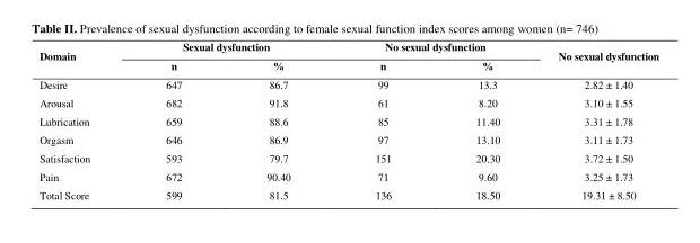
<table><thead><tr><td rowspan="2">Domain</td><td colspan="2">Sexual dysfunction</td><td colspan="2">No sexual dysfunction</td><td rowspan="2">No sexual dysfunction</td></tr><tr><td>n</td><td>%</td><td>n</td><td>%</td></tr></thead><tbody><tr><td>Desire</td><td>647</td><td>86.7</td><td>99</td><td>13.3</td><td>2.82 ± 1.40</td></tr><tr><td>Arousal</td><td>682</td><td>91.8</td><td>61</td><td>8.20</td><td>3.10 ± 1.55</td></tr><tr><td>Lubrication</td><td>659</td><td>88.6</td><td>85</td><td>11.40</td><td>3.31 ± 1.78</td></tr><tr><td>Orgasm</td><td>646</td><td>86.9</td><td>97</td><td>13.10</td><td>3.11 ± 1.73</td></tr><tr><td>Satisfaction</td><td>593</td><td>79.7</td><td>151</td><td>20.30</td><td>3.72 ± 1.50</td></tr><tr><td>Pain</td><td>672</td><td>90.40</td><td>71</td><td>9.60</td><td>3.25 ± 1.73</td></tr><tr><td>Total Score</td><td>599</td><td>81.5</td><td>136</td><td>18.50</td><td>19.31 ± 8.50</td></tr></tbody></table>